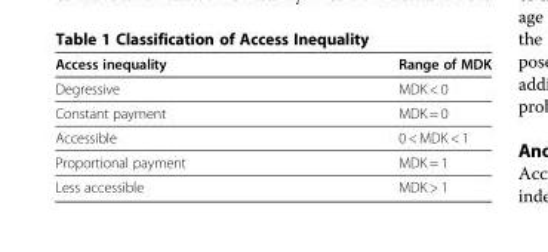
<table><thead><tr><td>Access inequality</td><td>Range of MDK</td></tr></thead><tbody><tr><td>Degressive</td><td>MDK &lt; 0</td></tr><tr><td>Constant payment</td><td>MDK = 0</td></tr><tr><td>Accessible</td><td>0 &lt; MDK &lt; 1</td></tr><tr><td>Proportional payment</td><td>MDK = 1</td></tr><tr><td>Less accessible</td><td>MDK &gt; 1</td></tr></tbody></table>